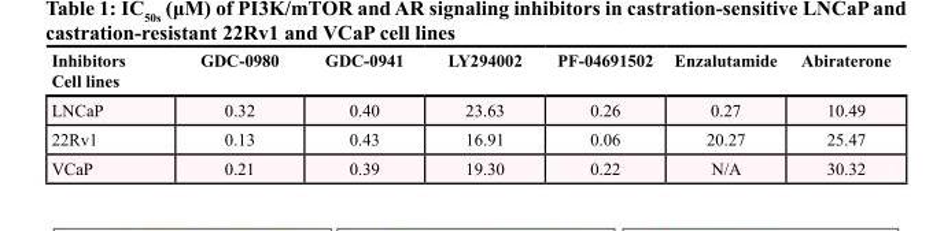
<table><thead><tr><td>Inhibitors Cell lines</td><td>GDC-0980</td><td>GDC-0941</td><td>LY294002</td><td>PF-04691502</td><td>Enzalutamide</td><td>Abiraterone</td></tr></thead><tbody><tr><td>LNCaP</td><td>0.32</td><td>0.40</td><td>23.63</td><td>0.26</td><td>0.27</td><td>10.49</td></tr><tr><td>22Rv1</td><td>0.13</td><td>0.43</td><td>16.91</td><td>0.06</td><td>20.27</td><td>25.47</td></tr><tr><td>VCaP</td><td>0.21</td><td>0.39</td><td>19.30</td><td>0.22</td><td>N/A</td><td>30.32</td></tr></tbody></table>